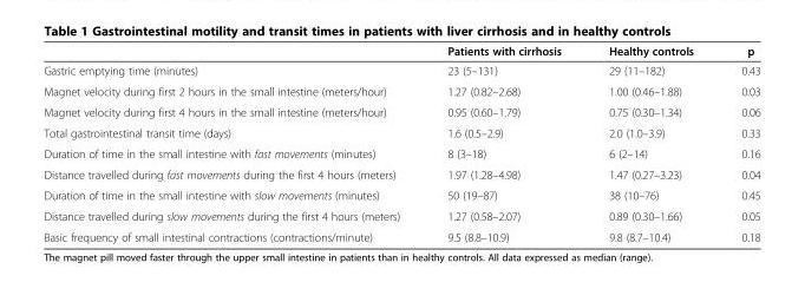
<table><thead><tr><td></td><td>Patients with cirrhosis</td><td>Healthy controls</td><td>p</td></tr></thead><tbody><tr><td>Gastric emptying time (minutes)</td><td>23 (5–131)</td><td>29 (11–182)</td><td>0.43</td></tr><tr><td>Magnet velocity during first 2 hours in the small intestine (meters/hour)</td><td>1.27 (0.82–2.68)</td><td>1.00 (0.46–1.88)</td><td>0.03</td></tr><tr><td>Magnet velocity during first 4 hours in the small intestine (meters/hour)</td><td>0.95 (0.60–1.79)</td><td>0.75 (0.30–1.34)</td><td>0.06</td></tr><tr><td>Total gastrointestinal transit time (days)</td><td>1.6 (0.5–2.9)</td><td>2.0 (1.0–3.9)</td><td>0.33</td></tr><tr><td>Duration of time in the small intestine with fast movements (minutes)</td><td>8 (3–18)</td><td>6 (2–14)</td><td>0.16</td></tr><tr><td>Distance travelled during fast movements during the first 4 hours (meters)</td><td>1.97 (1.28–4.98)</td><td>1.47 (0.27–3.23)</td><td>0.04</td></tr><tr><td>Duration of time in the small intestine with slow movements (minutes)</td><td>50 (19–87)</td><td>38 (10–76)</td><td>0.45</td></tr><tr><td>Distance travelled during slow movements during the first 4 hours (meters)</td><td>1.27 (0.58–2.07)</td><td>0.89 (0.30–1.66)</td><td>0.05</td></tr><tr><td>Basic frequency of small intestinal contractions (contractions/minute)</td><td>9.5 (8.8–10.9)</td><td>9.8 (8.7–10.4)</td><td>0.18</td></tr></tbody></table>